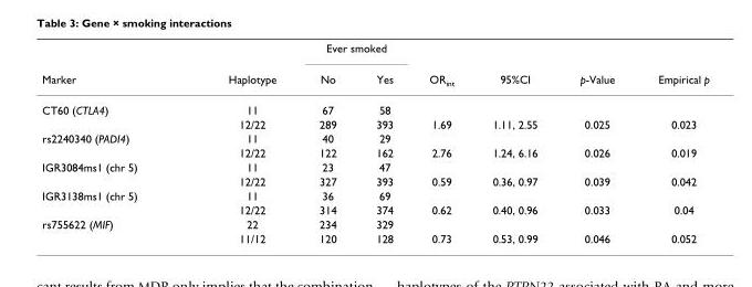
<table><thead><tr><td rowspan="2">Marker</td><td rowspan="2">Haplotype</td><td colspan="2">Ever smoked</td><td rowspan="2">OR<sub>int</sub></td><td rowspan="2">95%CI</td><td rowspan="2">p-Value</td><td rowspan="2">Empirical p</td></tr><tr><td>No</td><td>Yes</td></tr></thead><tbody><tr><td rowspan="2">CT60 (CTLA4)</td><td>11</td><td>67</td><td>58</td><td></td><td></td><td></td><td></td></tr><tr><td>12/22</td><td>289</td><td>393</td><td>1.69</td><td>1.11, 2.55</td><td>0.025</td><td>0.023</td></tr><tr><td rowspan="2">rs2240340 (PADI4)</td><td>11</td><td>40</td><td>29</td><td></td><td></td><td></td><td></td></tr><tr><td>12/22</td><td>122</td><td>162</td><td>2.76</td><td>1.24, 6.16</td><td>0.026</td><td>0.019</td></tr><tr><td rowspan="2">IGR3084ms1 (chr 5)</td><td>11</td><td>23</td><td>47</td><td></td><td></td><td></td><td></td></tr><tr><td>12/22</td><td>327</td><td>393</td><td>0.59</td><td>0.36, 0.97</td><td>0.039</td><td>0.042</td></tr><tr><td rowspan="2">IGR3138ms1 (chr 5)</td><td>11</td><td>36</td><td>69</td><td></td><td></td><td></td><td></td></tr><tr><td>12/22</td><td>314</td><td>374</td><td>0.62</td><td>0.40, 0.96</td><td>0.033</td><td>0.04</td></tr><tr><td rowspan="2">rs755622 (MIF)</td><td>22</td><td>234</td><td>329</td><td></td><td></td><td></td><td></td></tr><tr><td>11/12</td><td>120</td><td>128</td><td>0.73</td><td>0.53, 0.99</td><td>0.046</td><td>0.052</td></tr></tbody></table>